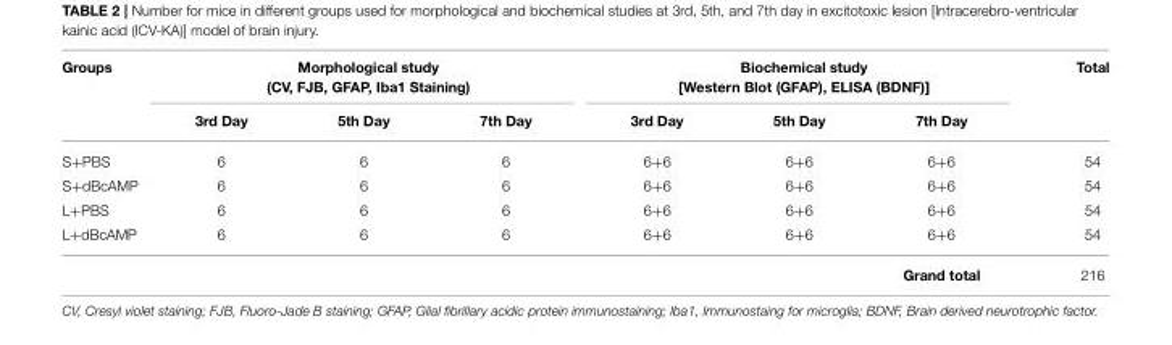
<table><thead><tr><td rowspan="2">Groups</td><td colspan="3">Morphological study (CV, FJB, GFAP, Iba1 Staining)</td><td colspan="3">Biochemical study [Western Blot (GFAP), ELISA (BDNF)]</td><td rowspan="2">Total</td></tr><tr><td>3rd Day</td><td>5th Day</td><td>7th Day</td><td>3rd Day</td><td>5th Day</td><td>7th Day</td></tr></thead><tbody><tr><td>S+PBS</td><td>6</td><td>6</td><td>6</td><td>6+6</td><td>6+6</td><td>6+6</td><td>54</td></tr><tr><td>S+dBcAMP</td><td>6</td><td>6</td><td>6</td><td>6+6</td><td>6+6</td><td>6+6</td><td>54</td></tr><tr><td>L+PBS</td><td>6</td><td>6</td><td>6</td><td>6+6</td><td>6+6</td><td>6+6</td><td>54</td></tr><tr><td rowspan="2">L+dBcAMP</td><td>6</td><td>6</td><td>6</td><td>6+6</td><td>6+6</td><td>6+6</td><td>54</td></tr><tr><td></td><td></td><td></td><td></td><td></td><td>Grand total</td><td>216</td></tr></tbody></table>